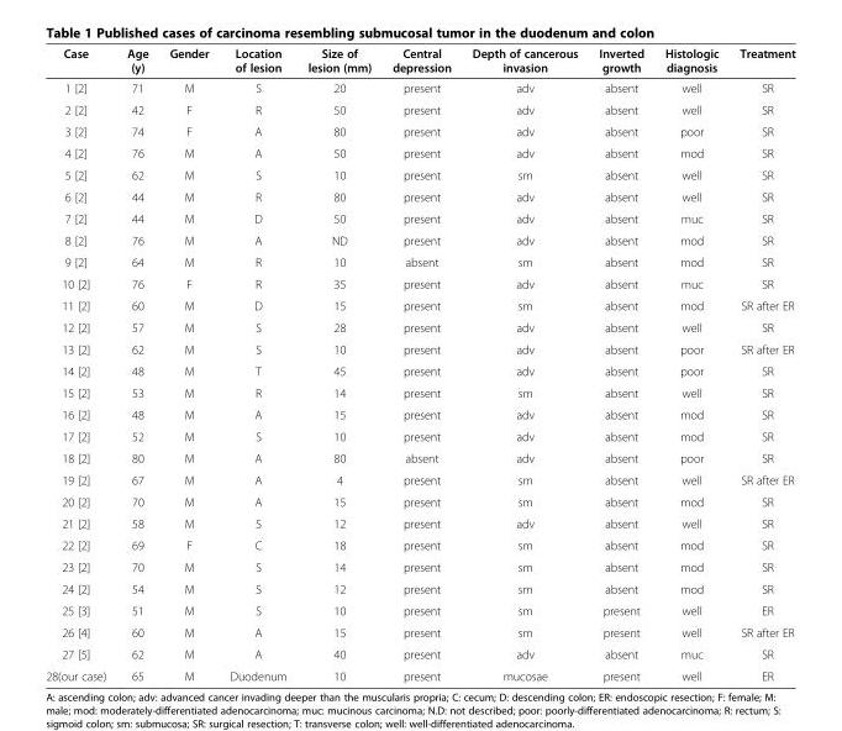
<table><thead><tr><td>Case</td><td>Age (y)</td><td>Gender</td><td>Location of lesion</td><td>Size of lesion (mm)</td><td>Central depression</td><td>Depth of cancerous invasion</td><td>Inverted growth</td><td>Histologic diagnosis</td><td>Treatment</td></tr></thead><tbody><tr><td>1 [2]</td><td>71</td><td>M</td><td>S</td><td>20</td><td>present</td><td>adv</td><td>absent</td><td>well</td><td>SR</td></tr><tr><td>2 [2]</td><td>42</td><td>F</td><td>R</td><td>50</td><td>present</td><td>adv</td><td>absent</td><td>well</td><td>SR</td></tr><tr><td>3 [2]</td><td>74</td><td>F</td><td>A</td><td>80</td><td>present</td><td>adv</td><td>absent</td><td>poor</td><td>SR</td></tr><tr><td>4 [2]</td><td>76</td><td>M</td><td>A</td><td>50</td><td>present</td><td>adv</td><td>absent</td><td>mod</td><td>SR</td></tr><tr><td>5 [2]</td><td>62</td><td>M</td><td>S</td><td>10</td><td>present</td><td>sm</td><td>absent</td><td>well</td><td>SR</td></tr><tr><td>6 [2]</td><td>44</td><td>M</td><td>R</td><td>80</td><td>present</td><td>adv</td><td>absent</td><td>well</td><td>SR</td></tr><tr><td>7 [2]</td><td>44</td><td>M</td><td>D</td><td>50</td><td>present</td><td>adv</td><td>absent</td><td>muc</td><td>SR</td></tr><tr><td>8 [2]</td><td>76</td><td>M</td><td>A</td><td>ND</td><td>present</td><td>adv</td><td>absent</td><td>mod</td><td>SR</td></tr><tr><td>9 [2]</td><td>64</td><td>M</td><td>R</td><td>10</td><td>absent</td><td>sm</td><td>absent</td><td>mod</td><td>SR</td></tr><tr><td>10 [2]</td><td>76</td><td>F</td><td>R</td><td>35</td><td>present</td><td>adv</td><td>absent</td><td>muc</td><td>SR</td></tr><tr><td>11 [2]</td><td>60</td><td>M</td><td>D</td><td>15</td><td>present</td><td>sm</td><td>absent</td><td>mod</td><td>SR after ER</td></tr><tr><td>12 [2]</td><td>57</td><td>M</td><td>S</td><td>28</td><td>present</td><td>adv</td><td>absent</td><td>well</td><td>SR</td></tr><tr><td>13 [2]</td><td>62</td><td>M</td><td>S</td><td>10</td><td>present</td><td>adv</td><td>absent</td><td>poor</td><td>SR after ER</td></tr><tr><td>14 [2]</td><td>48</td><td>M</td><td>T</td><td>45</td><td>present</td><td>adv</td><td>absent</td><td>poor</td><td>SR</td></tr><tr><td>15 [2]</td><td>53</td><td>M</td><td>R</td><td>14</td><td>present</td><td>sm</td><td>absent</td><td>well</td><td>SR</td></tr><tr><td>16 [2]</td><td>48</td><td>M</td><td>A</td><td>15</td><td>present</td><td>adv</td><td>absent</td><td>mod</td><td>SR</td></tr><tr><td>17 [2]</td><td>52</td><td>M</td><td>S</td><td>10</td><td>present</td><td>adv</td><td>absent</td><td>mod</td><td>SR</td></tr><tr><td>18 [2]</td><td>80</td><td>M</td><td>A</td><td>80</td><td>absent</td><td>adv</td><td>absent</td><td>poor</td><td>SR</td></tr><tr><td>19 [2]</td><td>67</td><td>M</td><td>A</td><td>4</td><td>present</td><td>sm</td><td>absent</td><td>well</td><td>SR after ER</td></tr><tr><td>20 [2]</td><td>70</td><td>M</td><td>A</td><td>15</td><td>present</td><td>sm</td><td>absent</td><td>mod</td><td>SR</td></tr><tr><td>21 [2]</td><td>58</td><td>M</td><td>S</td><td>12</td><td>present</td><td>adv</td><td>absent</td><td>well</td><td>SR</td></tr><tr><td>22 [2]</td><td>69</td><td>F</td><td>C</td><td>18</td><td>present</td><td>sm</td><td>absent</td><td>mod</td><td>SR</td></tr><tr><td>23 [2]</td><td>70</td><td>M</td><td>S</td><td>14</td><td>present</td><td>sm</td><td>absent</td><td>mod</td><td>SR</td></tr><tr><td>24 [2]</td><td>54</td><td>M</td><td>S</td><td>12</td><td>present</td><td>sm</td><td>absent</td><td>mod</td><td>SR</td></tr><tr><td>25 [3]</td><td>51</td><td>M</td><td>S</td><td>10</td><td>present</td><td>sm</td><td>present</td><td>well</td><td>ER</td></tr><tr><td>26 [4]</td><td>60</td><td>M</td><td>A</td><td>15</td><td>present</td><td>sm</td><td>present</td><td>well</td><td>SR after ER</td></tr><tr><td>27 [5]</td><td>62</td><td>M</td><td>A</td><td>40</td><td>present</td><td>adv</td><td>absent</td><td>muc</td><td>SR</td></tr><tr><td>28(our case)</td><td>65</td><td>M</td><td>Duodenum</td><td>10</td><td>present</td><td>mucosae</td><td>present</td><td>well</td><td>ER</td></tr></tbody></table>